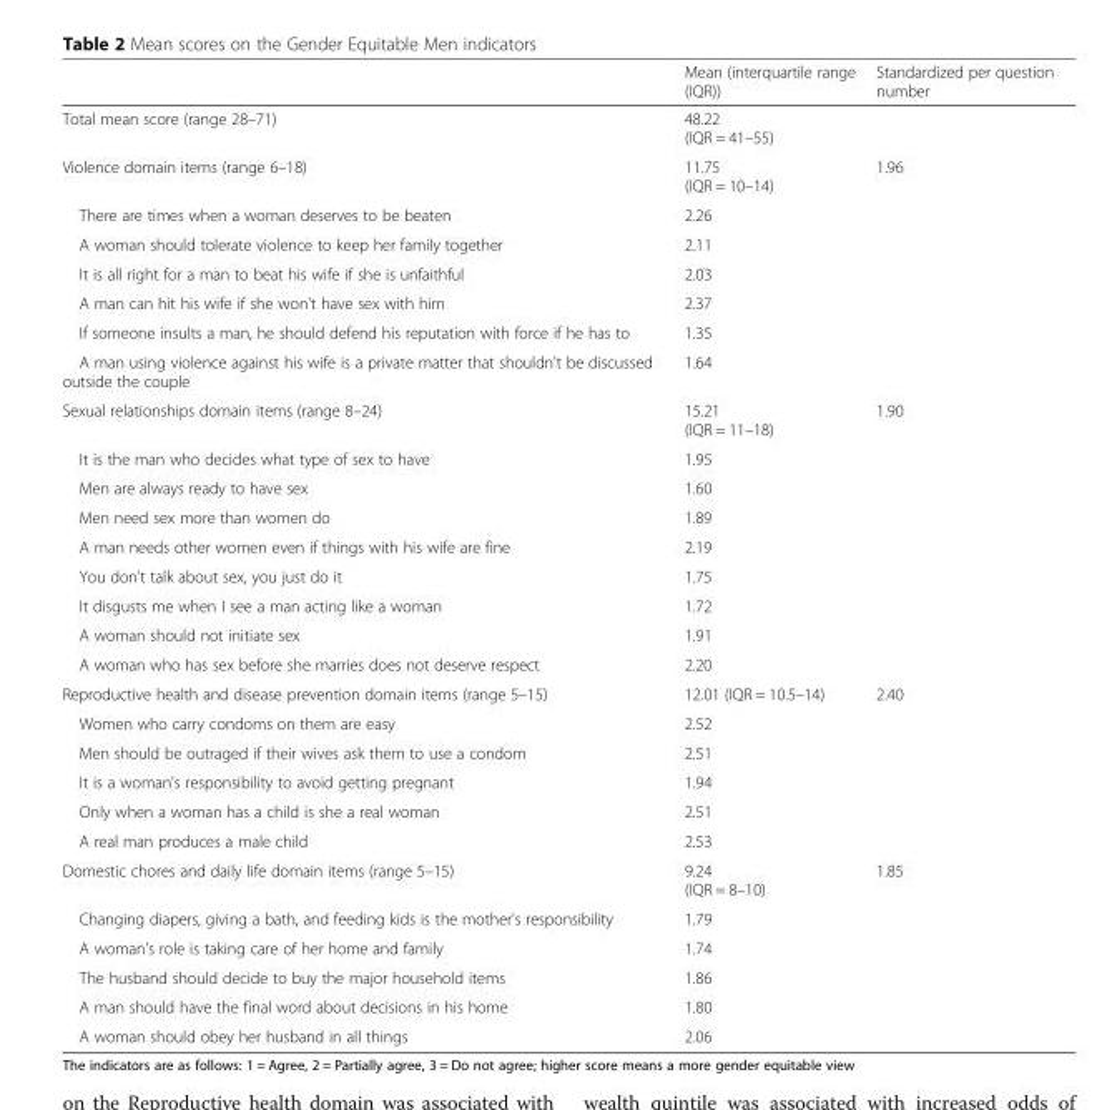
<table><thead><tr><td></td><td>Mean (interquartile range (IQR))</td><td>Standardized per question number</td></tr></thead><tbody><tr><td>Total mean score (range 28–71)</td><td>48.22 (IQR = 41–55)</td><td></td></tr><tr><td>Violence domain items (range 6–18)</td><td>11.75 (IQR = 10–14)</td><td>1.96</td></tr><tr><td>There are times when a woman deserves to be beaten</td><td>2.26</td><td></td></tr><tr><td>A woman should tolerate violence to keep her family together</td><td>2.11</td><td></td></tr><tr><td>It is all right for a man to beat his wife if she is unfaithful</td><td>2.03</td><td></td></tr><tr><td>A man can hit his wife if she won&#x27;t have sex with him</td><td>2.37</td><td></td></tr><tr><td>If someone insults a man, he should defend his reputation with force if he has to</td><td>1.35</td><td></td></tr><tr><td>A man using violence against his wife is a private matter that shouldn&#x27;t be discussed outside the couple</td><td>1.64</td><td></td></tr><tr><td>Sexual relationships domain items (range 8–24)</td><td>15.21 (IQR = 11–18)</td><td>1.90</td></tr><tr><td>It is the man who decides what type of sex to have</td><td>1.95</td><td></td></tr><tr><td>Men are always ready to have sex</td><td>1.60</td><td></td></tr><tr><td>Men need sex more than women do</td><td>1.89</td><td></td></tr><tr><td>A man needs other women even if things with his wife are fine</td><td>2.19</td><td></td></tr><tr><td>You don&#x27;t talk about sex, you just do it</td><td>1.75</td><td></td></tr><tr><td>It disgusts me when I see a man acting like a woman</td><td>1.72</td><td></td></tr><tr><td>A woman should not initiate sex</td><td>1.91</td><td></td></tr><tr><td>A woman who has sex before she marries does not deserve respect</td><td>2.20</td><td></td></tr><tr><td>Reproductive health and disease prevention domain items (range 5–15)</td><td>12.01 (IQR = 10.5–14)</td><td>2.40</td></tr><tr><td>Women who carry condoms on them are easy</td><td>2.52</td><td></td></tr><tr><td>Men should be outraged if their wives ask them to use a condom</td><td>2.51</td><td></td></tr><tr><td>It is a woman&#x27;s responsibility to avoid getting pregnant</td><td>1.94</td><td></td></tr><tr><td>Only when a woman has a child is she a real woman</td><td>2.51</td><td></td></tr><tr><td>A real man produces a male child</td><td>2.53</td><td></td></tr><tr><td>Domestic chores and daily life domain items (range 5–15)</td><td>9.24 (IQR = 8–10)</td><td>1.85</td></tr><tr><td>Changing diapers, giving a bath, and feeding kids is the mother&#x27;s responsibility</td><td>1.79</td><td></td></tr><tr><td>A woman&#x27;s role is taking care of her home and family</td><td>1.74</td><td></td></tr><tr><td>The husband should decide to buy the major household items</td><td>1.86</td><td></td></tr><tr><td>A man should have the final word about decisions in his home</td><td>1.80</td><td></td></tr><tr><td>A woman should obey her husband in all things</td><td>2.06</td><td></td></tr></tbody></table>